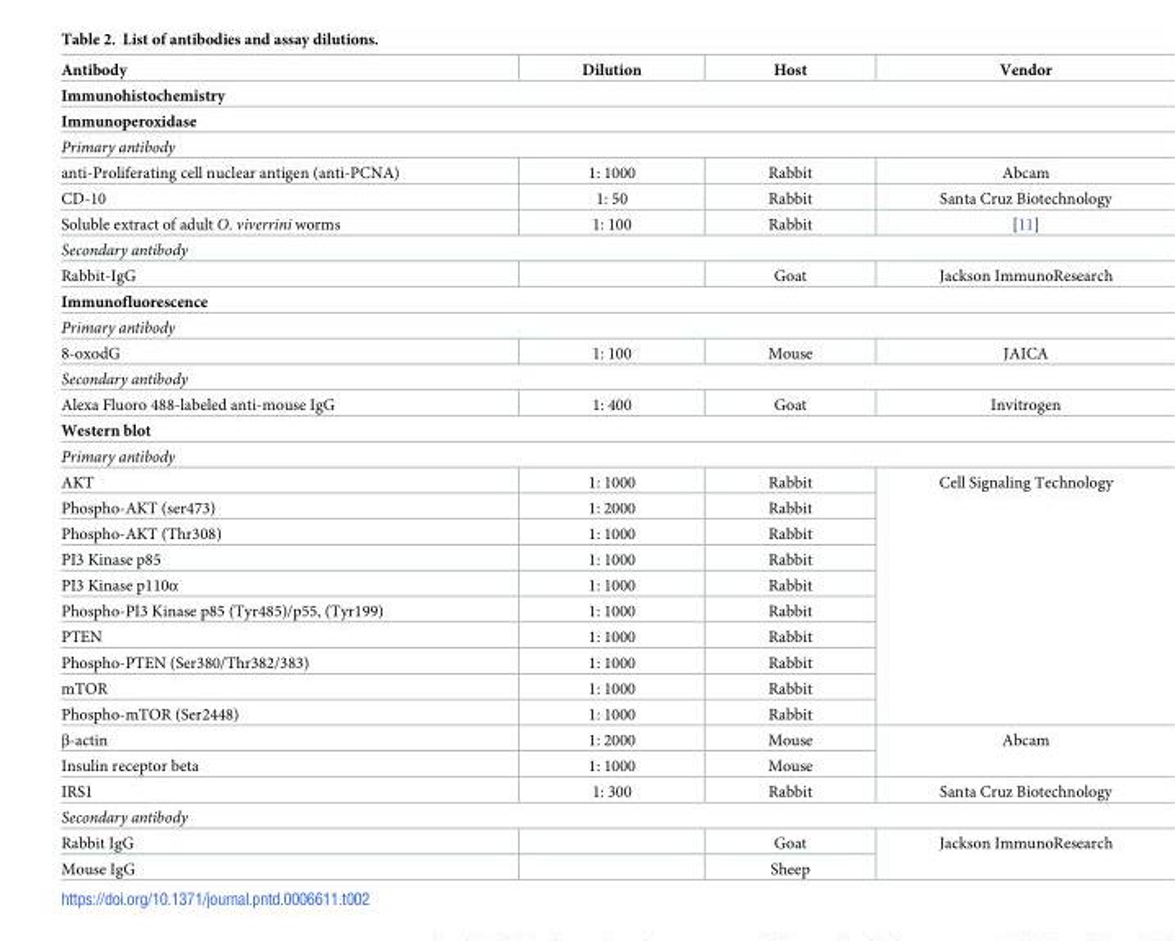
<table><thead><tr><td>Antibody</td><td>Dilution</td><td>Host</td><td>Vendor</td></tr></thead><tbody><tr><td colspan="4">Immunohistochemistry</td></tr><tr><td colspan="4">Immunoperoxidase</td></tr><tr><td colspan="4">Primary antibody</td></tr><tr><td>anti-Proliferating cell nuclear antigen (anti-PCNA)</td><td>1: 1000</td><td>Rabbit</td><td>Abcam</td></tr><tr><td>CD-10</td><td>1: 50</td><td>Rabbit</td><td>Santa Cruz Biotechnology</td></tr><tr><td>Soluble extract of adult O. viverrini worms</td><td>1: 100</td><td>Rabbit</td><td>[11]</td></tr><tr><td colspan="4">Secondary antibody</td></tr><tr><td>Rabbit-IgG</td><td></td><td>Goat</td><td>Jackson ImmunoResearch</td></tr><tr><td colspan="4">Immunofluorescence</td></tr><tr><td colspan="4">Primary antibody</td></tr><tr><td>8-oxodG</td><td>1: 100</td><td>Mouse</td><td>JAICA</td></tr><tr><td colspan="4">Secondary antibody</td></tr><tr><td>Alexa Fluoro 488-labeled anti-mouse IgG</td><td>1: 400</td><td>Goat</td><td>Invitrogen</td></tr><tr><td colspan="4">Western blot</td></tr><tr><td colspan="4">Primary antibody</td></tr><tr><td>AKT</td><td>1: 1000</td><td>Rabbit</td><td rowspan="10">Cell Signaling Technology</td></tr><tr><td>Phospho-AKT (ser473)</td><td>1: 2000</td><td>Rabbit</td></tr><tr><td>Phospho-AKT (Thr308)</td><td>1: 1000</td><td>Rabbit</td></tr><tr><td>PI3 Kinase p85</td><td>1: 1000</td><td>Rabbit</td></tr><tr><td>PI3 Kinase p110α</td><td>1: 1000</td><td>Rabbit</td></tr><tr><td>Phospho-PI3 Kinase p85 (Tyr485)/p55, (Tyr199)</td><td>1: 1000</td><td>Rabbit</td></tr><tr><td>PTEN</td><td>1: 1000</td><td>Rabbit</td></tr><tr><td>Phospho-PTEN (Ser380/Thr382/383)</td><td>1: 1000</td><td>Rabbit</td></tr><tr><td>mTOR</td><td>1: 1000</td><td>Rabbit</td></tr><tr><td>Phospho-mTOR (Ser2448)</td><td>1: 1000</td><td>Rabbit</td></tr><tr><td>β-actin</td><td>1: 2000</td><td>Mouse</td><td rowspan="2">Abcam</td></tr><tr><td>Insulin receptor beta</td><td>1: 1000</td><td>Mouse</td></tr><tr><td>IRS1</td><td>1: 300</td><td>Rabbit</td><td>Santa Cruz Biotechnology</td></tr><tr><td colspan="4">Secondary antibody</td></tr><tr><td>Rabbit IgG</td><td></td><td>Goat</td><td rowspan="2">Jackson ImmunoResearch</td></tr><tr><td>Mouse IgG</td><td></td><td>Sheep</td></tr></tbody></table>